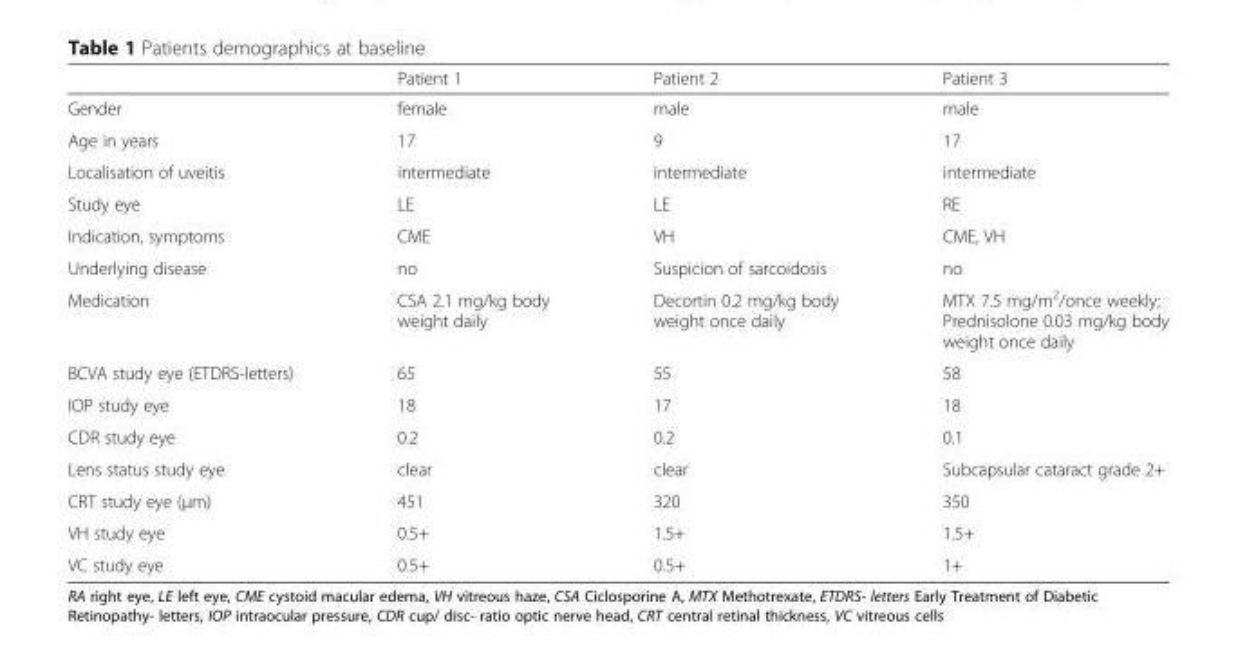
<table><thead><tr><td></td><td>Patient 1</td><td>Patient 2</td><td>Patient 3</td></tr></thead><tbody><tr><td>Gender</td><td>female</td><td>male</td><td>male</td></tr><tr><td>Age in years</td><td>17</td><td>9</td><td>17</td></tr><tr><td>Localisation of uveitis</td><td>intermediate</td><td>intermediate</td><td>intermediate</td></tr><tr><td>Study eye</td><td>LE</td><td>LE</td><td>RE</td></tr><tr><td>Indication, symptoms</td><td>CME</td><td>VH</td><td>CME, VH</td></tr><tr><td>Underlying disease</td><td>no</td><td>Suspicion of sarcoidosis</td><td>no</td></tr><tr><td>Medication</td><td>CSA 2.1 mg/kg body weight daily</td><td>Decortin 0.2 mg/kg body weight once daily</td><td>MTX 7.5 mg/m<sup>2</sup>/once weekly; Prednisolone 0.03 mg/kg body weight once daily</td></tr><tr><td>BCVA study eye (ETDRS-letters)</td><td>65</td><td>55</td><td>58</td></tr><tr><td>IOP study eye</td><td>18</td><td>17</td><td>18</td></tr><tr><td>CDR study eye</td><td>0.2</td><td>0.2</td><td>0.1</td></tr><tr><td>Lens status study eye</td><td>clear</td><td>clear</td><td>Subcapsular cataract grade 2+</td></tr><tr><td>CRT study eye (μm)</td><td>451</td><td>320</td><td>350</td></tr><tr><td>VH study eye</td><td>0.5+</td><td>1.5+</td><td>1.5+</td></tr><tr><td>VC study eye</td><td>0.5+</td><td>0.5+</td><td>1+</td></tr></tbody></table>